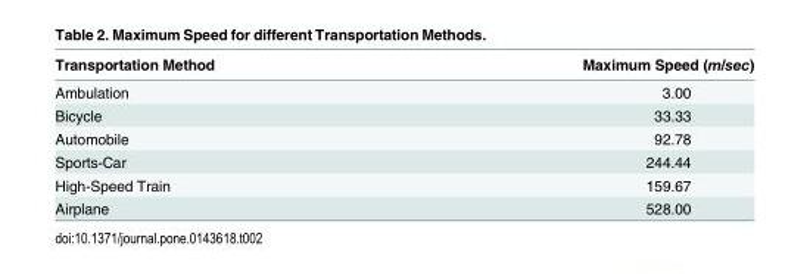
<table><thead><tr><td>Transportation Method</td><td>Maximum Speed (m/sec)</td></tr></thead><tbody><tr><td>Ambulation</td><td>3.00</td></tr><tr><td>Bicycle</td><td>33.33</td></tr><tr><td>Automobile</td><td>92.78</td></tr><tr><td>Sports-Car</td><td>244.44</td></tr><tr><td>High-Speed Train</td><td>159.67</td></tr><tr><td>Airplane</td><td>528.00</td></tr></tbody></table>